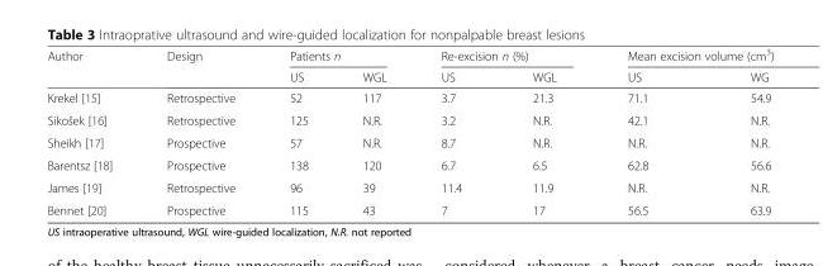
<table><thead><tr><td rowspan="2">Author</td><td rowspan="2">Design</td><td colspan="2">Patients n</td><td colspan="2">Re-excision n (%)</td><td colspan="2">Mean excision volume (cm<sup>3</sup>)</td></tr><tr><td>US</td><td>WGL</td><td>US</td><td>WGL</td><td>US</td><td>WG</td></tr></thead><tbody><tr><td>Krekel [15]</td><td>Retrospective</td><td>52</td><td>117</td><td>3.7</td><td>21.3</td><td>71.1</td><td>54.9</td></tr><tr><td>Sikošek [16]</td><td>Retrospective</td><td>125</td><td>N.R.</td><td>3.2</td><td>N.R.</td><td>42.1</td><td>N.R.</td></tr><tr><td>Sheikh [17]</td><td>Prospective</td><td>57</td><td>N.R.</td><td>8.7</td><td>N.R.</td><td>N.R.</td><td>N.R.</td></tr><tr><td>Barentsz [18]</td><td>Prospective</td><td>138</td><td>120</td><td>6.7</td><td>6.5</td><td>62.8</td><td>56.6</td></tr><tr><td>James [19]</td><td>Retrospective</td><td>96</td><td>39</td><td>11.4</td><td>11.9</td><td>N.R.</td><td>N.R.</td></tr><tr><td>Bennet [20]</td><td>Prospective</td><td>115</td><td>43</td><td>7</td><td>17</td><td>56.5</td><td>63.9</td></tr></tbody></table>